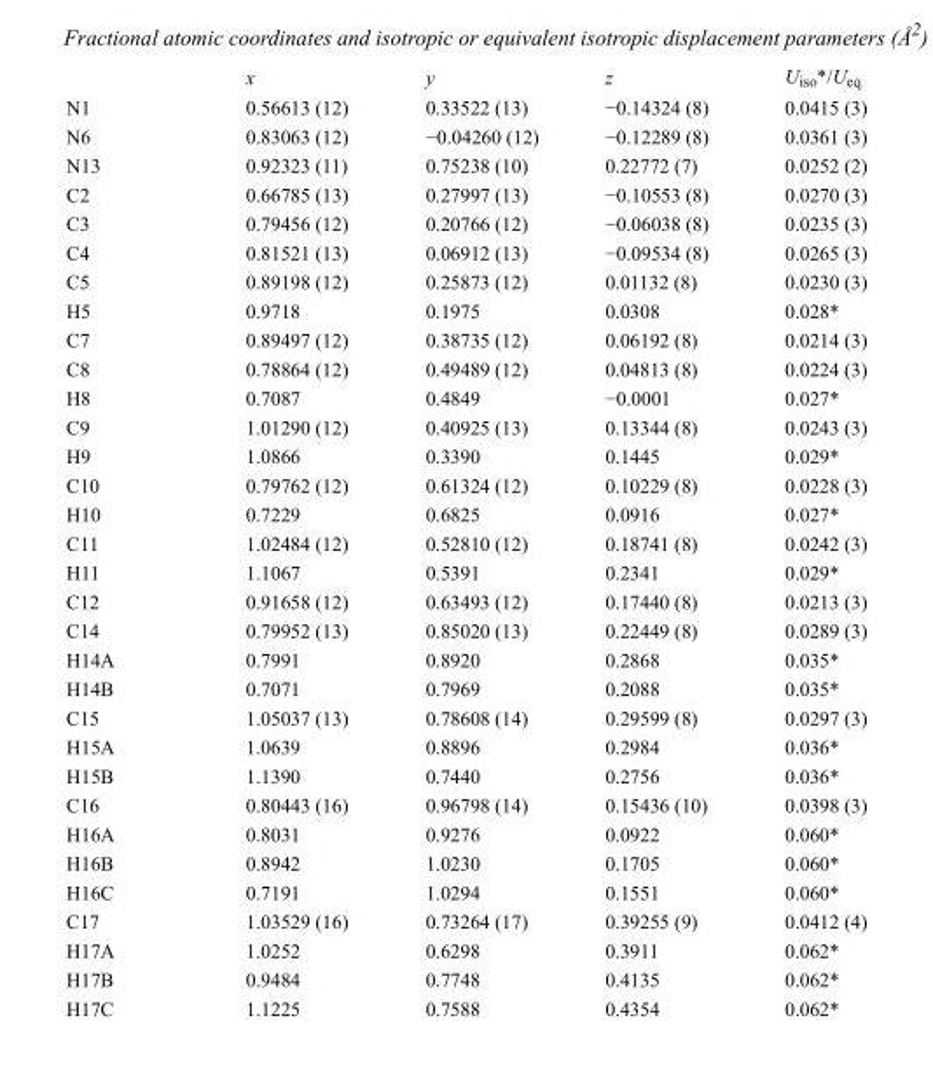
<table><thead><tr><td></td><td>x</td><td>y</td><td>z</td><td>U<sub>iso</sub>*/U<sub>eq</sub></td></tr></thead><tbody><tr><td>N1</td><td>0.56613 (12)</td><td>0.33522 (13)</td><td>−0.14324 (8)</td><td>0.0415 (3)</td></tr><tr><td>N6</td><td>0.83063 (12)</td><td>−0.04260 (12)</td><td>−0.12289 (8)</td><td>0.0361 (3)</td></tr><tr><td>N13</td><td>0.92323 (11)</td><td>0.75238 (10)</td><td>0.22772 (7)</td><td>0.0252 (2)</td></tr><tr><td>C2</td><td>0.66785 (13)</td><td>0.27997 (13)</td><td>−0.10553 (8)</td><td>0.0270 (3)</td></tr><tr><td>C3</td><td>0.79456 (12)</td><td>0.20766 (12)</td><td>−0.06038 (8)</td><td>0.0235 (3)</td></tr><tr><td>C4</td><td>0.81521 (13)</td><td>0.06912 (13)</td><td>−0.09534 (8)</td><td>0.0265 (3)</td></tr><tr><td>C5</td><td>0.89198 (12)</td><td>0.25873 (12)</td><td>0.01132 (8)</td><td>0.0230 (3)</td></tr><tr><td>H5</td><td>0.9718</td><td>0.1975</td><td>0.0308</td><td>0.028*</td></tr><tr><td>C7</td><td>0.89497 (12)</td><td>0.38735 (12)</td><td>0.06192 (8)</td><td>0.0214 (3)</td></tr><tr><td>C8</td><td>0.78864 (12)</td><td>0.49489 (12)</td><td>0.04813 (8)</td><td>0.0224 (3)</td></tr><tr><td>H8</td><td>0.7087</td><td>0.4849</td><td>−0.0001</td><td>0.027*</td></tr><tr><td>C9</td><td>1.01290 (12)</td><td>0.40925 (13)</td><td>0.13344 (8)</td><td>0.0243 (3)</td></tr><tr><td>H9</td><td>1.0866</td><td>0.3390</td><td>0.1445</td><td>0.029*</td></tr><tr><td>C10</td><td>0.79762 (12)</td><td>0.61324 (12)</td><td>0.10229 (8)</td><td>0.0228 (3)</td></tr><tr><td>H10</td><td>0.7229</td><td>0.6825</td><td>0.0916</td><td>0.027*</td></tr><tr><td>C11</td><td>1.02484 (12)</td><td>0.52810 (12)</td><td>0.18741 (8)</td><td>0.0242 (3)</td></tr><tr><td>H11</td><td>1.1067</td><td>0.5391</td><td>0.2341</td><td>0.029*</td></tr><tr><td>C12</td><td>0.91658 (12)</td><td>0.63493 (12)</td><td>0.17440 (8)</td><td>0.0213 (3)</td></tr><tr><td>C14</td><td>0.79952 (13)</td><td>0.85020 (13)</td><td>0.22449 (8)</td><td>0.0289 (3)</td></tr><tr><td>H14A</td><td>0.7991</td><td>0.8920</td><td>0.2868</td><td>0.035*</td></tr><tr><td>H14B</td><td>0.7071</td><td>0.7969</td><td>0.2088</td><td>0.035*</td></tr><tr><td>C15</td><td>1.05037 (13)</td><td>0.78608 (14)</td><td>0.29599 (8)</td><td>0.0297 (3)</td></tr><tr><td>H15A</td><td>1.0639</td><td>0.8896</td><td>0.2984</td><td>0.036*</td></tr><tr><td>H15B</td><td>1.1390</td><td>0.7440</td><td>0.2756</td><td>0.036*</td></tr><tr><td>C16</td><td>0.80443 (16)</td><td>0.96798 (14)</td><td>0.15436 (10)</td><td>0.0398 (3)</td></tr><tr><td>H16A</td><td>0.8031</td><td>0.9276</td><td>0.0922</td><td>0.060*</td></tr><tr><td>H16B</td><td>0.8942</td><td>1.0230</td><td>0.1705</td><td>0.060*</td></tr><tr><td>H16C</td><td>0.7191</td><td>1.0294</td><td>0.1551</td><td>0.060*</td></tr><tr><td>C17</td><td>1.03529 (16)</td><td>0.73264 (17)</td><td>0.39255 (9)</td><td>0.0412 (4)</td></tr><tr><td>H17A</td><td>1.0252</td><td>0.6298</td><td>0.3911</td><td>0.062*</td></tr><tr><td>H17B</td><td>0.9484</td><td>0.7748</td><td>0.4135</td><td>0.062*</td></tr><tr><td>H17C</td><td>1.1225</td><td>0.7588</td><td>0.4354</td><td>0.062*</td></tr></tbody></table>